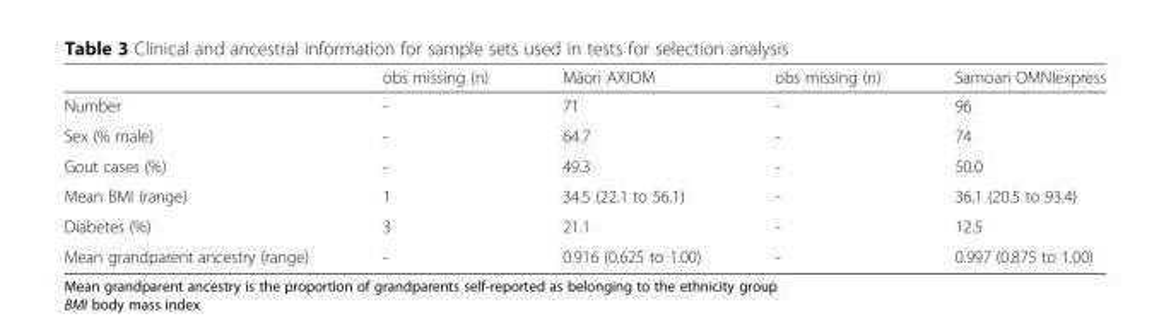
<table><thead><tr><td></td><td>obs missing (n)</td><td>Māori AXIOM</td><td>obs missing (n)</td><td>Samoan OMNIexpress</td></tr></thead><tbody><tr><td>Number</td><td>-</td><td>71</td><td>-</td><td>96</td></tr><tr><td>Sex (% male)</td><td>-</td><td>64.7</td><td>-</td><td>74</td></tr><tr><td>Gout cases (%)</td><td>-</td><td>49.3</td><td>-</td><td>50.0</td></tr><tr><td>Mean BMI (range)</td><td>1</td><td>34.5 (22.1 to 56.1)</td><td>-</td><td>36.1 (20.5 to 93.4)</td></tr><tr><td>Diabetes (%)</td><td>3</td><td>21.1</td><td>-</td><td>12.5</td></tr><tr><td>Mean grandparent ancestry (range)</td><td>-</td><td>0.916 (0.625 to 1.00)</td><td>-</td><td>0.997 (0.875 to 1.00)</td></tr></tbody></table>